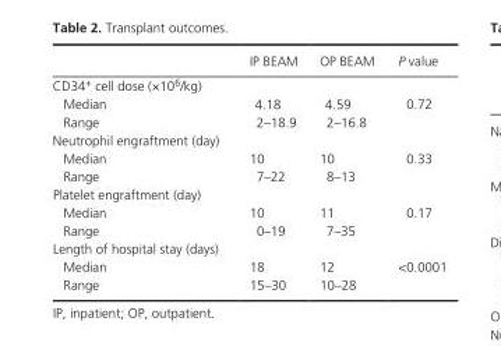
<table><thead><tr><td></td><td>IP BEAM</td><td>OP BEAM</td><td>P value</td></tr></thead><tbody><tr><td colspan="4">CD34<sup>+</sup> cell dose (×10<sup>6</sup>/kg)</td></tr><tr><td>Median</td><td>4.18</td><td>4.59</td><td>0.72</td></tr><tr><td>Range</td><td>2–18.9</td><td>2–16.8</td><td></td></tr><tr><td colspan="4">Neutrophil engraftment (day)</td></tr><tr><td>Median</td><td>10</td><td>10</td><td>0.33</td></tr><tr><td>Range</td><td>7–22</td><td>8–13</td><td></td></tr><tr><td colspan="4">Platelet engraftment (day)</td></tr><tr><td>Median</td><td>10</td><td>11</td><td>0.17</td></tr><tr><td>Range</td><td>0–19</td><td>7–35</td><td></td></tr><tr><td colspan="4">Length of hospital stay (days)</td></tr><tr><td>Median</td><td>18</td><td>12</td><td>&lt;0.0001</td></tr><tr><td>Range</td><td>15–30</td><td>10–28</td><td></td></tr></tbody></table>